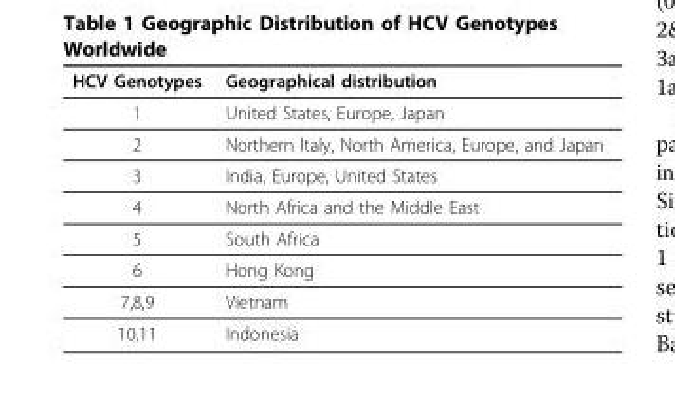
<table><thead><tr><td>HCV Genotypes</td><td>Geographical distribution</td></tr></thead><tbody><tr><td>1</td><td>United States, Europe, Japan</td></tr><tr><td>2</td><td>Northern Italy, North America, Europe, and Japan</td></tr><tr><td>3</td><td>India, Europe, United States</td></tr><tr><td>4</td><td>North Africa and the Middle East</td></tr><tr><td>5</td><td>South Africa</td></tr><tr><td>6</td><td>Hong Kong</td></tr><tr><td>7,8,9</td><td>Vietnam</td></tr><tr><td>10,11</td><td>Indonesia</td></tr></tbody></table>